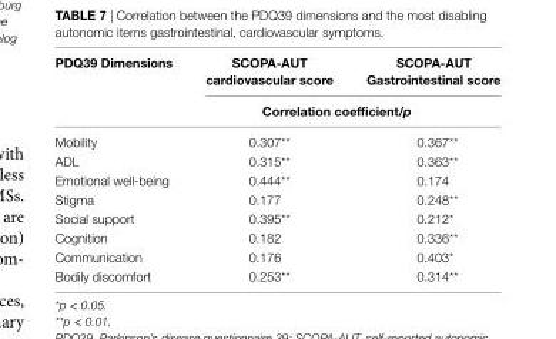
<table><thead><tr><td rowspan="2">PDQ39 Dimensions</td><td>scOPa-aUT cardiovascular score</td><td>scOPa-aUT gastrointestinal score</td></tr><tr><td colspan="2">correlation coefficient/p</td></tr></thead><tbody><tr><td>Mobility</td><td>0.307**</td><td>0.367**</td></tr><tr><td>ADL</td><td>0.315**</td><td>0.363**</td></tr><tr><td>Emotional well-being</td><td>0.444**</td><td>0.174</td></tr><tr><td>Stigma</td><td>0.177</td><td>0.248**</td></tr><tr><td>Social support</td><td>0.395**</td><td>0.212*</td></tr><tr><td>Cognition</td><td>0.182</td><td>0.336**</td></tr><tr><td>Communication</td><td>0.176</td><td>0.403*</td></tr><tr><td>Bodily discomfort</td><td>0.253**</td><td>0.314**</td></tr></tbody></table>